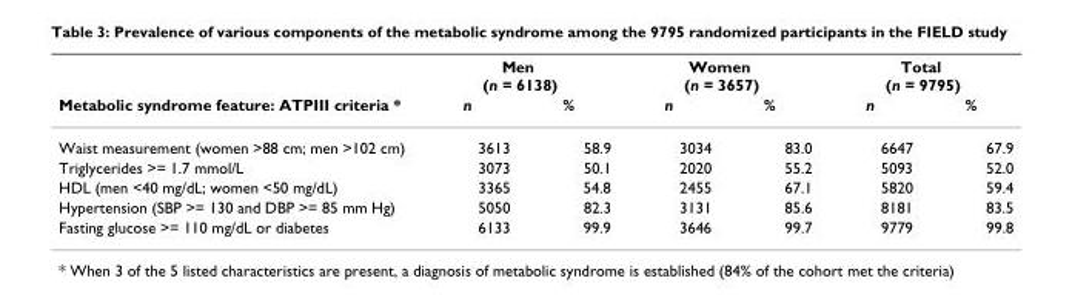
<table><thead><tr><td rowspan="2">Metabolic syndrome feature: ATPIII criteria *</td><td colspan="2">Men (n = 6138)</td><td colspan="2">Women (n = 3657)</td><td colspan="2">Total (n = 9795)</td></tr><tr><td>n</td><td>%</td><td>n</td><td>%</td><td>n</td><td>%</td></tr></thead><tbody><tr><td>Waist measurement (women &gt;88 cm; men &gt;102 cm)</td><td>3613</td><td>58.9</td><td>3034</td><td>83.0</td><td>6647</td><td>67.9</td></tr><tr><td>Triglycerides &gt;= 1.7 mmol/L</td><td>3073</td><td>50.1</td><td>2020</td><td>55.2</td><td>5093</td><td>52.0</td></tr><tr><td>HDL (men &lt;40 mg/dL; women &lt;50 mg/dL)</td><td>3365</td><td>54.8</td><td>2455</td><td>67.1</td><td>5820</td><td>59.4</td></tr><tr><td>Hypertension (SBP &gt;= 130 and DBP &gt;= 85 mm Hg)</td><td>5050</td><td>82.3</td><td>3131</td><td>85.6</td><td>8181</td><td>83.5</td></tr><tr><td>Fasting glucose &gt;= 110 mg/dL or diabetes</td><td>6133</td><td>99.9</td><td>3646</td><td>99.7</td><td>9779</td><td>99.8</td></tr></tbody></table>